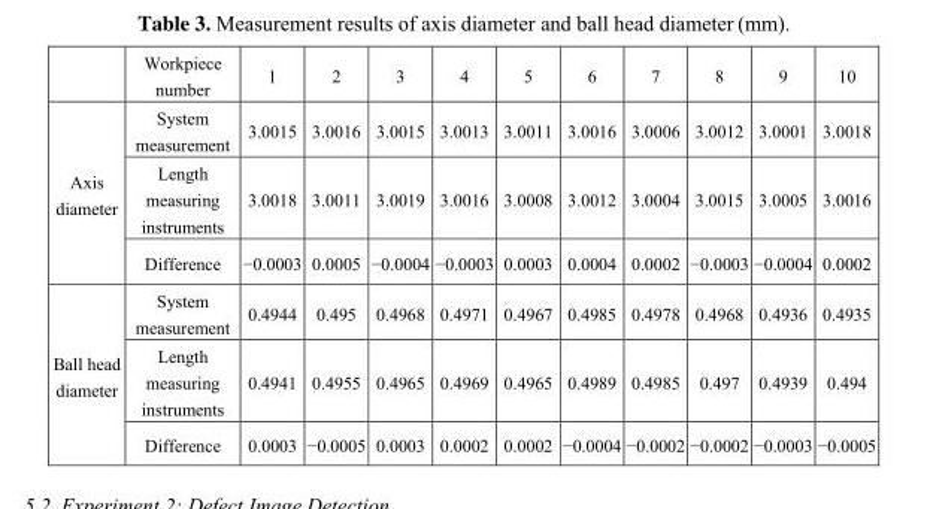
<table><thead><tr><td></td><td>Workpiece number</td><td>1</td><td>2</td><td>3</td><td>4</td><td>5</td><td>6</td><td>7</td><td>8</td><td>9</td><td>10</td></tr></thead><tbody><tr><td rowspan="3">Axis diameter</td><td>System measurement</td><td>3.0015</td><td>3.0016</td><td>3.0015</td><td>3.0013</td><td>3.0011</td><td>3.0016</td><td>3.0006</td><td>3.0012</td><td>3.0001</td><td>3.0018</td></tr><tr><td>Length measuring instruments</td><td>3.0018</td><td>3.0011</td><td>3.0019</td><td>3.0016</td><td>3.0008</td><td>3.0012</td><td>3.0004</td><td>3.0015</td><td>3.0005</td><td>3.0016</td></tr><tr><td>Difference</td><td>−0.0003</td><td>0.0005</td><td>−0.0004</td><td>−0.0003</td><td>0.0003</td><td>0.0004</td><td>0.0002</td><td>−0.0003</td><td>−0.0004</td><td>0.0002</td></tr><tr><td rowspan="3">Ball head diameter</td><td>System measurement</td><td>0.4944</td><td>0.495</td><td>0.4968</td><td>0.4971</td><td>0.4967</td><td>0.4985</td><td>0.4978</td><td>0.4968</td><td>0.4936</td><td>0.4935</td></tr><tr><td>Length measuring instruments</td><td>0.4941</td><td>0.4955</td><td>0.4965</td><td>0.4969</td><td>0.4965</td><td>0.4989</td><td>0.4985</td><td>0.497</td><td>0.4939</td><td>0.494</td></tr><tr><td>Difference</td><td>0.0003</td><td>−0.0005</td><td>0.0003</td><td>0.0002</td><td>0.0002</td><td>−0.0004</td><td>−0.0002</td><td>−0.0002</td><td>−0.0003</td><td>−0.0005</td></tr></tbody></table>